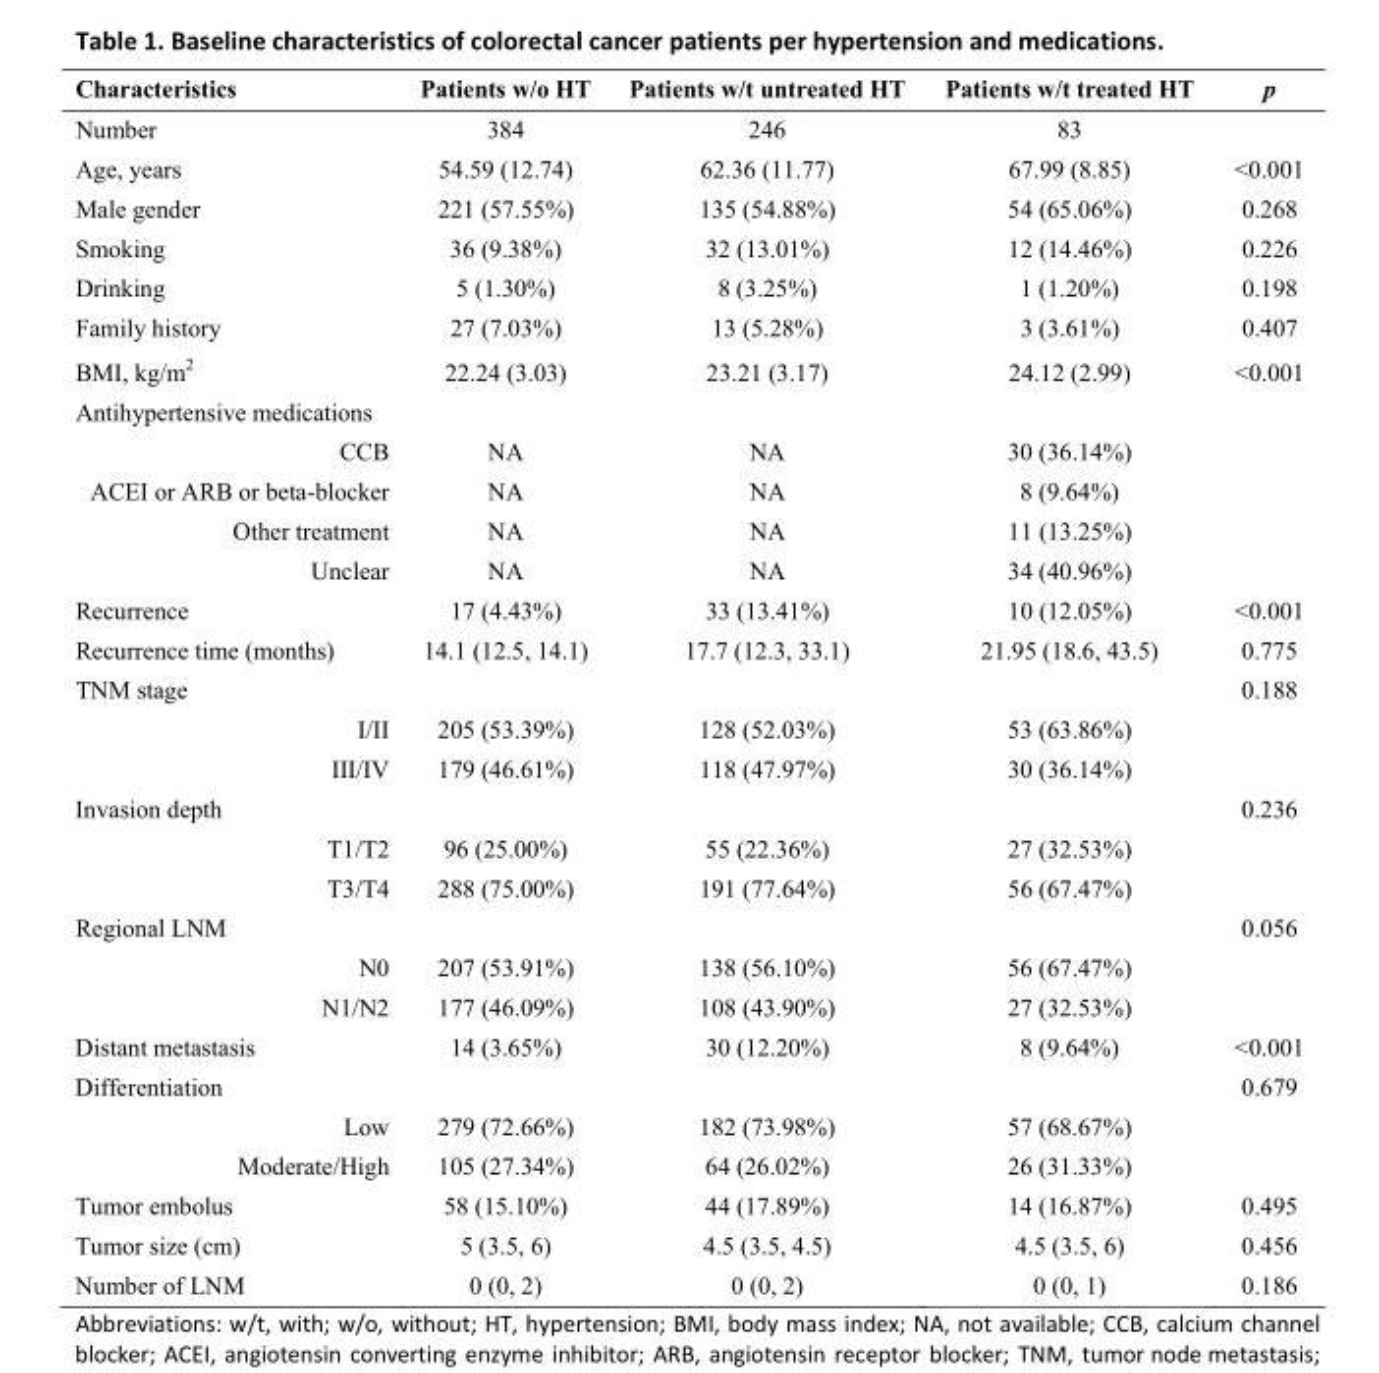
<table><tbody><tr><td>Characteristics</td><td>Patients w/o HT</td><td>Patients w/t untreated HT</td><td>Patients w/t treated HT</td><td>p</td></tr><tr><td>Number</td><td>384</td><td>246</td><td>83</td><td></td></tr><tr><td>Age, years</td><td>54.59 (12.74)</td><td>62.36 (11.77)</td><td>67.99 (8.85)</td><td>&lt;0.001</td></tr><tr><td>Male gender</td><td>221 (57.55%)</td><td>135 (54.88%)</td><td>54 (65.06%)</td><td>0.268</td></tr><tr><td>Smoking</td><td>36 (9.38%)</td><td>32 (13.01%)</td><td>12 (14.46%)</td><td>0.226</td></tr><tr><td>Drinking</td><td>5 (1.30%)</td><td>8 (3.25%)</td><td>1 (1.20%)</td><td>0.198</td></tr><tr><td>Family history</td><td>27 (7.03%)</td><td>13 (5.28%)</td><td>3 (3.61%)</td><td>0.407</td></tr><tr><td>BMI, kg/m<sup>2</sup></td><td>22.24 (3.03)</td><td>23.21 (3.17)</td><td>24.12 (2.99)</td><td>&lt;0.001</td></tr><tr><td colspan="5">Antihypertensive medications</td></tr><tr><td>CCB</td><td>NA</td><td>NA</td><td>30 (36.14%)</td><td></td></tr><tr><td>ACEI or ARB or beta-blocker</td><td>NA</td><td>NA</td><td>8 (9.64%)</td><td></td></tr><tr><td>Other treatment</td><td>NA</td><td>NA</td><td>11 (13.25%)</td><td></td></tr><tr><td>Unclear</td><td>NA</td><td>NA</td><td>34 (40.96%)</td><td></td></tr><tr><td>Recurrence</td><td>17 (4.43%)</td><td>33 (13.41%)</td><td>10 (12.05%)</td><td>&lt;0.001</td></tr><tr><td>Recurrence time (months)</td><td>14.1 (12.5, 14.1)</td><td>17.7 (12.3, 33.1)</td><td>21.95 (18.6, 43.5)</td><td>0.775</td></tr><tr><td>TNM stage</td><td></td><td></td><td></td><td>0.188</td></tr><tr><td>I/II</td><td>205 (53.39%)</td><td>128 (52.03%)</td><td>53 (63.86%)</td><td></td></tr><tr><td>III/IV</td><td>179 (46.61%)</td><td>118 (47.97%)</td><td>30 (36.14%)</td><td></td></tr><tr><td>Invasion depth</td><td></td><td></td><td></td><td>0.236</td></tr><tr><td>T1/T2</td><td>96 (25.00%)</td><td>55 (22.36%)</td><td>27 (32.53%)</td><td></td></tr><tr><td>T3/T4</td><td>288 (75.00%)</td><td>191 (77.64%)</td><td>56 (67.47%)</td><td></td></tr><tr><td>Regional LNM</td><td></td><td></td><td></td><td>0.056</td></tr><tr><td>N0</td><td>207 (53.91%)</td><td>138 (56.10%)</td><td>56 (67.47%)</td><td></td></tr><tr><td>N1/N2</td><td>177 (46.09%)</td><td>108 (43.90%)</td><td>27 (32.53%)</td><td></td></tr><tr><td>Distant metastasis</td><td>14 (3.65%)</td><td>30 (12.20%)</td><td>8 (9.64%)</td><td>&lt;0.001</td></tr><tr><td>Differentiation</td><td></td><td></td><td></td><td>0.679</td></tr><tr><td>Low</td><td>279 (72.66%)</td><td>182 (73.98%)</td><td>57 (68.67%)</td><td></td></tr><tr><td>Moderate/High</td><td>105 (27.34%)</td><td>64 (26.02%)</td><td>26 (31.33%)</td><td></td></tr><tr><td>Tumor embolus</td><td>58 (15.10%)</td><td>44 (17.89%)</td><td>14 (16.87%)</td><td>0.495</td></tr><tr><td>Tumor size (cm)</td><td>5 (3.5, 6)</td><td>4.5 (3.5, 4.5)</td><td>4.5 (3.5, 6)</td><td>0.456</td></tr><tr><td>Number of LNM</td><td>0 (0, 2)</td><td>0 (0, 2)</td><td>0 (0, 1)</td><td>0.186</td></tr></tbody></table>